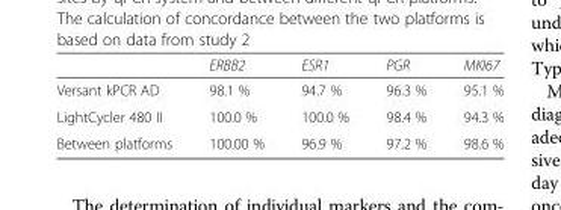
<table><thead><tr><td></td><td>ERBB2</td><td>ESR1</td><td>PGR</td><td>MKI67</td></tr></thead><tbody><tr><td>Versant kPCR AD</td><td>98.1 %</td><td>94.7 %</td><td>96.3 %</td><td>95.1 %</td></tr><tr><td>LightCycler 480 II</td><td>100.0 %</td><td>100.0 %</td><td>98.4 %</td><td>94.3 %</td></tr><tr><td>Between platforms</td><td>100.00 %</td><td>96.9 %</td><td>97.2 %</td><td>98.6 %</td></tr></tbody></table>